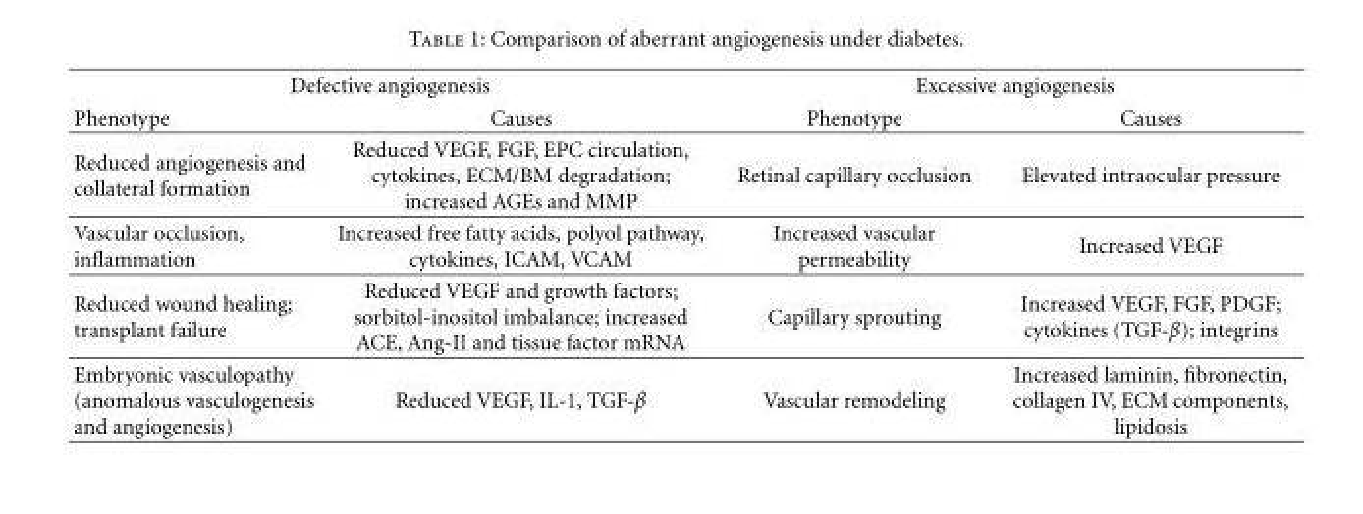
<table><tbody><tr><td colspan="2">Defective angiogenesis</td><td colspan="2">Excessive angiogenesis</td></tr><tr><td>Phenotype</td><td>Causes</td><td>Phenotype</td><td>Causes</td></tr><tr><td>Reduced angiogenesis and collateral formation</td><td>Reduced VEGF, FGF, EPC circulation, cytokines, ECM/BM degradation; increased AGEs and MMP</td><td>Retinal capillary occlusion</td><td>Elevated intraocular pressure</td></tr><tr><td>Vascular occlusion, inflammation</td><td>Increased free fatty acids, polyol pathway, cytokines, ICAM, VCAM</td><td>Increased vascular permeability</td><td>Increased VEGF</td></tr><tr><td>Reduced wound healing; transplant failure</td><td>Reduced VEGF and growth factors; sorbitol-inositol imbalance; increased ACE, Ang-II and tissue factor mRNA</td><td>Capillary sprouting</td><td>Increased VEGF, FGF, PDGF; cytokines (TGF-β); integrins</td></tr><tr><td>Embryonic vasculopathy (anomalous vasculogenesis and angiogenesis)</td><td>Reduced VEGF, IL-1, TGF-β</td><td>Vascular remodeling</td><td>Increased laminin, fibronectin, collagen IV, ECM components, lipidosis</td></tr></tbody></table>